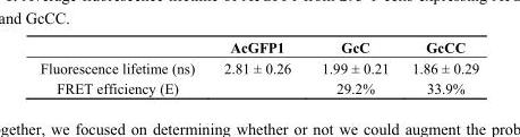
<table><thead><tr><td></td><td>AcGFP1</td><td>GcC</td><td>GcCC</td></tr></thead><tbody><tr><td>Fluorescence lifetime (ns)</td><td>2.81 ± 0.26</td><td>1.99 ± 0.21</td><td>1.86 ± 0.29</td></tr><tr><td>FRET efficiency (E)</td><td></td><td>29.2%</td><td>33.9%</td></tr></tbody></table>